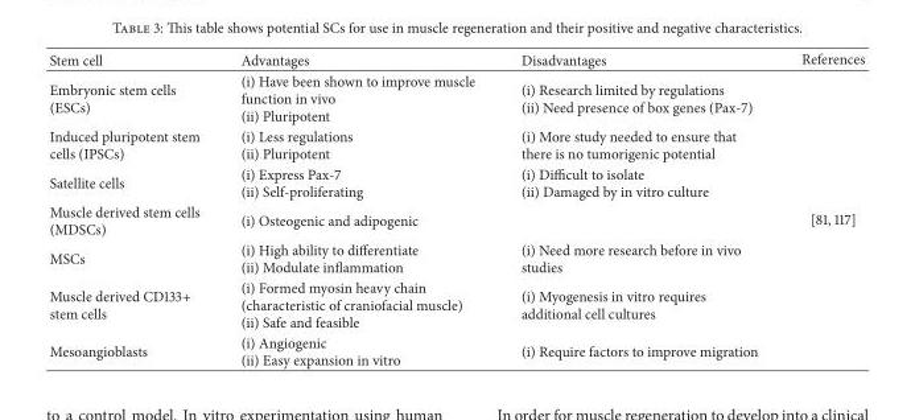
<table><thead><tr><td>Stem cell</td><td>Advantages</td><td>Disadvantages</td><td>References</td></tr></thead><tbody><tr><td>Embryonic stem cells (ESCs)</td><td>(i) Have been shown to improve muscle function in vivo (ii) Pluripotent</td><td>(i) Research limited by regulations (ii) Need presence of box genes (Pax-7)</td><td></td></tr><tr><td>Induced pluripotent stem cells (IPSCs)</td><td>(i) Less regulations (ii) Pluripotent</td><td>(i) More study needed to ensure that there is no tumorigenic potential</td><td></td></tr><tr><td>Satellite cells</td><td>(i) Express Pax-7 (ii) Self-proliferating</td><td>(i) Difficult to isolate (ii) Damaged by in vitro culture</td><td></td></tr><tr><td>Muscle derived stem cells (MDSCs)</td><td>(i) Osteogenic and adipogenic</td><td></td><td>[81, 117]</td></tr><tr><td>MSCs</td><td>(i) High ability to differentiate (ii) Modulate inflammation</td><td>(i) Need more research before in vivo studies</td><td></td></tr><tr><td>Muscle derived CD133+ stem cells</td><td>(i) Formed myosin heavy chain (characteristic of craniofacial muscle) (ii) Safe and feasible</td><td>(i) Myogenesis in vitro requires additional cell cultures</td><td></td></tr><tr><td>Mesoangioblasts</td><td>(i) Angiogenic (ii) Easy expansion in vitro</td><td>(i) Require factors to improve migration</td><td></td></tr></tbody></table>